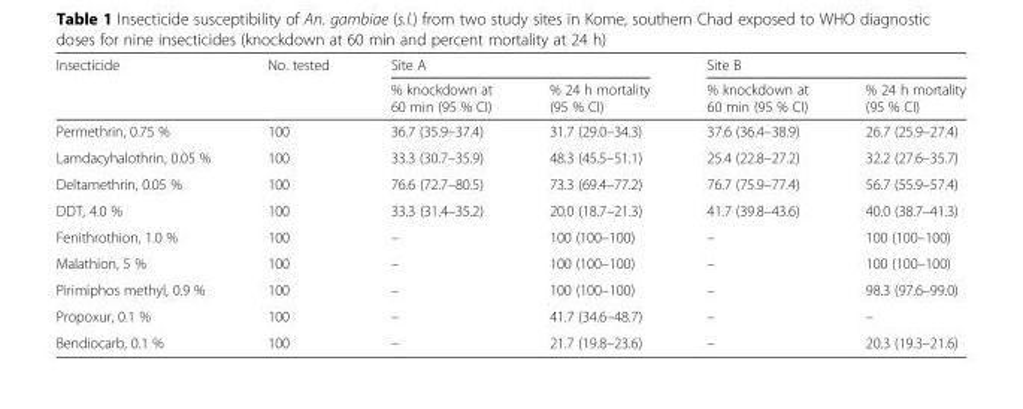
<table><thead><tr><td rowspan="2">Insecticide</td><td rowspan="2">No. tested</td><td colspan="2">Site A</td><td colspan="2">Site B</td></tr><tr><td>% knockdown at 60 min (95 % CI)</td><td>% 24 h mortality (95 % CI)</td><td>% knockdown at 60 min (95 % CI)</td><td>% 24 h mortality (95 % CI)</td></tr></thead><tbody><tr><td>Permethrin, 0.75 %</td><td>100</td><td>36.7 (35.9–37.4)</td><td>31.7 (29.0–34.3)</td><td>37.6 (36.4–38.9)</td><td>26.7 (25.9–27.4)</td></tr><tr><td>Lamdacyhalothrin, 0.05 %</td><td>100</td><td>33.3 (30.7–35.9)</td><td>48.3 (45.5–51.1)</td><td>25.4 (22.8–27.2)</td><td>32.2 (27.6–35.7)</td></tr><tr><td>Deltamethrin, 0.05 %</td><td>100</td><td>76.6 (72.7–80.5)</td><td>73.3 (69.4–77.2)</td><td>76.7 (75.9–77.4)</td><td>56.7 (55.9–57.4)</td></tr><tr><td>DDT, 4.0 %</td><td>100</td><td>33.3 (31.4–35.2)</td><td>20.0 (18.7–21.3)</td><td>41.7 (39.8–43.6)</td><td>40.0 (38.7–41.3)</td></tr><tr><td>Fenithrothion, 1.0 %</td><td>100</td><td>–</td><td>100 (100–100)</td><td>–</td><td>100 (100–100)</td></tr><tr><td>Malathion, 5 %</td><td>100</td><td>–</td><td>100 (100–100)</td><td>–</td><td>100 (100–100)</td></tr><tr><td>Pirimiphos methyl, 0.9 %</td><td>100</td><td>–</td><td>100 (100–100)</td><td>–</td><td>98.3 (97.6–99.0)</td></tr><tr><td>Propoxur, 0.1 %</td><td>100</td><td>–</td><td>41.7 (34.6–48.7)</td><td>–</td><td>–</td></tr><tr><td>Bendiocarb, 0.1 %</td><td>100</td><td>–</td><td>21.7 (19.8–23.6)</td><td>–</td><td>20.3 (19.3–21.6)</td></tr></tbody></table>